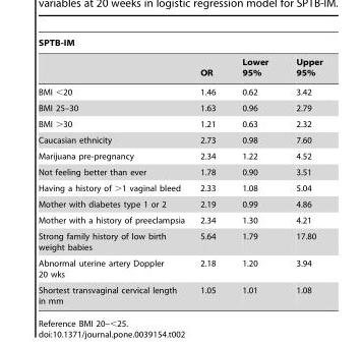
<table><thead><tr><td colspan="4">SPTB-IM</td></tr><tr><td></td><td>OR</td><td>Lower 95%</td><td>Upper 95%</td></tr></thead><tbody><tr><td>BMI &lt;20</td><td>1.46</td><td>0.62</td><td>3.42</td></tr><tr><td>BMI 25–30</td><td>1.63</td><td>0.96</td><td>2.79</td></tr><tr><td>BMI &gt;30</td><td>1.21</td><td>0.63</td><td>2.32</td></tr><tr><td>Caucasian ethnicity</td><td>2.73</td><td>0.98</td><td>7.60</td></tr><tr><td>Marijuana pre-pregnancy</td><td>2.34</td><td>1.22</td><td>4.52</td></tr><tr><td>Not feeling better than ever</td><td>1.78</td><td>0.90</td><td>3.51</td></tr><tr><td>Having a history of &gt;1 vaginal bleed</td><td>2.33</td><td>1.08</td><td>5.04</td></tr><tr><td>Mother with diabetes type 1 or 2</td><td>2.19</td><td>0.99</td><td>4.86</td></tr><tr><td>Mother with a history of preeclampsia</td><td>2.34</td><td>1.30</td><td>4.21</td></tr><tr><td>Strong family history of low birth weight babies</td><td>5.64</td><td>1.79</td><td>17.80</td></tr><tr><td>Abnormal uterine artery Doppler 20 wks</td><td>2.18</td><td>1.20</td><td>3.94</td></tr><tr><td>Shortest transvaginal cervical length in mm</td><td>1.05</td><td>1.01</td><td>1.08</td></tr></tbody></table>